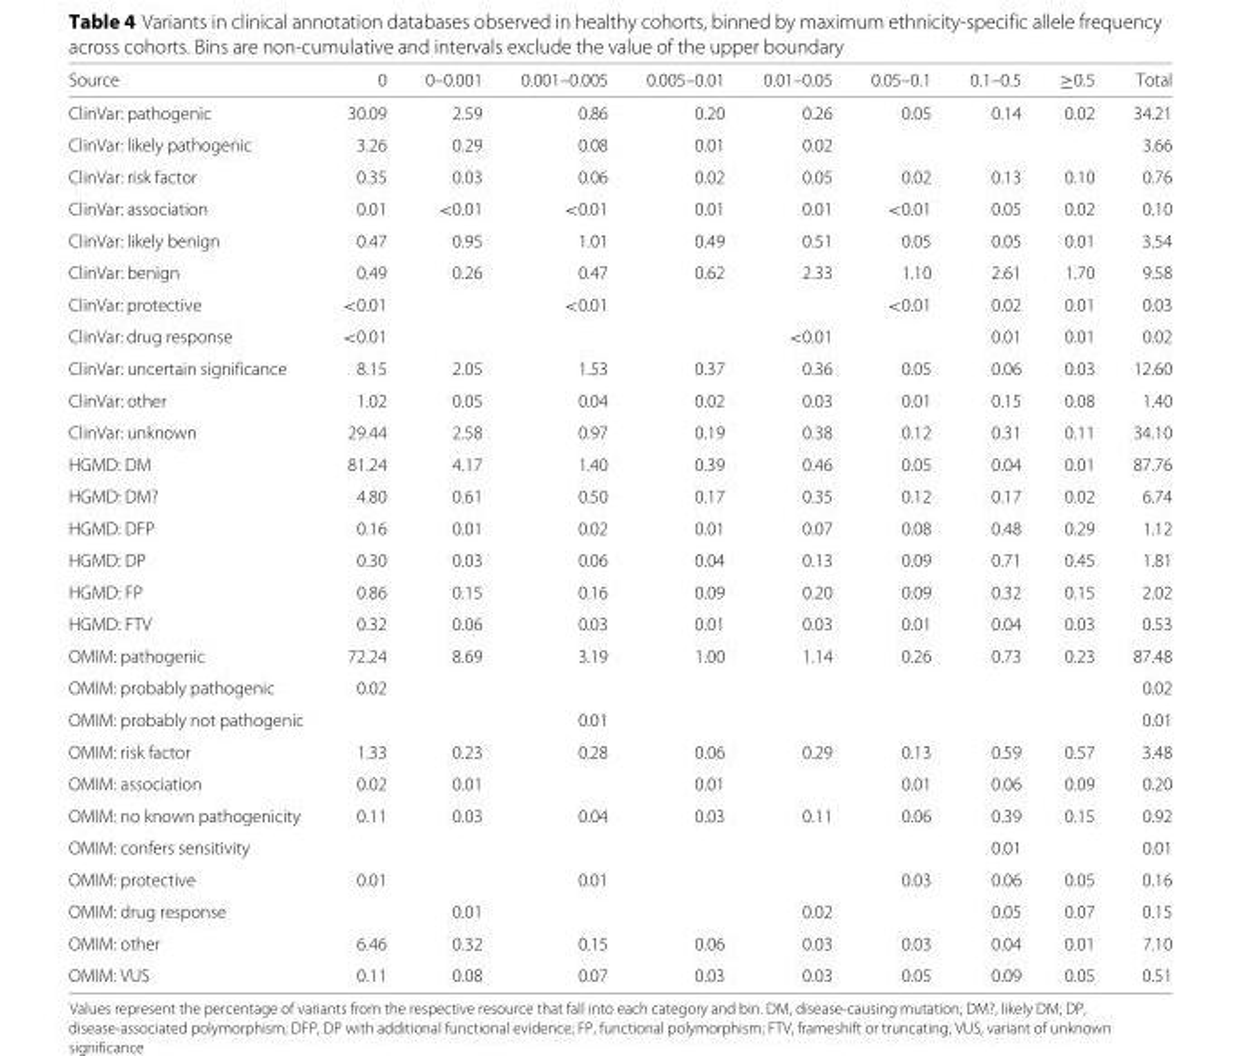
<table><thead><tr><td>Source</td><td>0</td><td>0–0.001</td><td>0.001–0.005</td><td>0.005–0.01</td><td>0.01–0.05</td><td>0.05–0.1</td><td>0.1–0.5</td><td>≥0.5</td><td>Total</td></tr></thead><tbody><tr><td>ClinVar: pathogenic</td><td>30.09</td><td>2.59</td><td>0.86</td><td>0.20</td><td>0.26</td><td>0.05</td><td>0.14</td><td>0.02</td><td>34.21</td></tr><tr><td>ClinVar: likely pathogenic</td><td>3.26</td><td>0.29</td><td>0.08</td><td>0.01</td><td>0.02</td><td></td><td></td><td></td><td>3.66</td></tr><tr><td>ClinVar: risk factor</td><td>0.35</td><td>0.03</td><td>0.06</td><td>0.02</td><td>0.05</td><td>0.02</td><td>0.13</td><td>0.10</td><td>0.76</td></tr><tr><td>ClinVar: association</td><td>0.01</td><td>&lt;0.01</td><td>&lt;0.01</td><td>0.01</td><td>0.01</td><td>&lt;0.01</td><td>0.05</td><td>0.02</td><td>0.10</td></tr><tr><td>ClinVar: likely benign</td><td>0.47</td><td>0.95</td><td>1.01</td><td>0.49</td><td>0.51</td><td>0.05</td><td>0.05</td><td>0.01</td><td>3.54</td></tr><tr><td>ClinVar: benign</td><td>0.49</td><td>0.26</td><td>0.47</td><td>0.62</td><td>2.33</td><td>1.10</td><td>2.61</td><td>1.70</td><td>9.58</td></tr><tr><td>ClinVar: protective</td><td>&lt;0.01</td><td></td><td>&lt;0.01</td><td></td><td></td><td>&lt;0.01</td><td>0.02</td><td>0.01</td><td>0.03</td></tr><tr><td>ClinVar: drug response</td><td>&lt;0.01</td><td></td><td></td><td></td><td>&lt;0.01</td><td></td><td>0.01</td><td>0.01</td><td>0.02</td></tr><tr><td>ClinVar: uncertain significance</td><td>8.15</td><td>2.05</td><td>1.53</td><td>0.37</td><td>0.36</td><td>0.05</td><td>0.06</td><td>0.03</td><td>12.60</td></tr><tr><td>ClinVar: other</td><td>1.02</td><td>0.05</td><td>0.04</td><td>0.02</td><td>0.03</td><td>0.01</td><td>0.15</td><td>0.08</td><td>1.40</td></tr><tr><td>ClinVar: unknown</td><td>29.44</td><td>2.58</td><td>0.97</td><td>0.19</td><td>0.38</td><td>0.12</td><td>0.31</td><td>0.11</td><td>34.10</td></tr><tr><td>HGMD: DM</td><td>81.24</td><td>4.17</td><td>1.40</td><td>0.39</td><td>0.46</td><td>0.05</td><td>0.04</td><td>0.01</td><td>87.76</td></tr><tr><td>HGMD: DM?</td><td>4.80</td><td>0.61</td><td>0.50</td><td>0.17</td><td>0.35</td><td>0.12</td><td>0.17</td><td>0.02</td><td>6.74</td></tr><tr><td>HGMD: DFP</td><td>0.16</td><td>0.01</td><td>0.02</td><td>0.01</td><td>0.07</td><td>0.08</td><td>0.48</td><td>0.29</td><td>1.12</td></tr><tr><td>HGMD: DP</td><td>0.30</td><td>0.03</td><td>0.06</td><td>0.04</td><td>0.13</td><td>0.09</td><td>0.71</td><td>0.45</td><td>1.81</td></tr><tr><td>HGMD: FP</td><td>0.86</td><td>0.15</td><td>0.16</td><td>0.09</td><td>0.20</td><td>0.09</td><td>0.32</td><td>0.15</td><td>2.02</td></tr><tr><td>HGMD: FTV</td><td>0.32</td><td>0.06</td><td>0.03</td><td>0.01</td><td>0.03</td><td>0.01</td><td>0.04</td><td>0.03</td><td>0.53</td></tr><tr><td>OMIM: pathogenic</td><td>72.24</td><td>8.69</td><td>3.19</td><td>1.00</td><td>1.14</td><td>0.26</td><td>0.73</td><td>0.23</td><td>87.48</td></tr><tr><td>OMIM: probably pathogenic</td><td>0.02</td><td></td><td></td><td></td><td></td><td></td><td></td><td></td><td>0.02</td></tr><tr><td>OMIM: probably not pathogenic</td><td></td><td></td><td>0.01</td><td></td><td></td><td></td><td></td><td></td><td>0.01</td></tr><tr><td>OMIM: risk factor</td><td>1.33</td><td>0.23</td><td>0.28</td><td>0.06</td><td>0.29</td><td>0.13</td><td>0.59</td><td>0.57</td><td>3.48</td></tr><tr><td>OMIM: association</td><td>0.02</td><td>0.01</td><td></td><td>0.01</td><td></td><td>0.01</td><td>0.06</td><td>0.09</td><td>0.20</td></tr><tr><td>OMIM: no known pathogenicity</td><td>0.11</td><td>0.03</td><td>0.04</td><td>0.03</td><td>0.11</td><td>0.06</td><td>0.39</td><td>0.15</td><td>0.92</td></tr><tr><td>OMIM: confers sensitivity</td><td></td><td></td><td></td><td></td><td></td><td></td><td>0.01</td><td></td><td>0.01</td></tr><tr><td>OMIM: protective</td><td>0.01</td><td></td><td>0.01</td><td></td><td></td><td>0.03</td><td>0.06</td><td>0.05</td><td>0.16</td></tr><tr><td>OMIM: drug response</td><td></td><td>0.01</td><td></td><td></td><td>0.02</td><td></td><td>0.05</td><td>0.07</td><td>0.15</td></tr><tr><td>OMIM: other</td><td>6.46</td><td>0.32</td><td>0.15</td><td>0.06</td><td>0.03</td><td>0.03</td><td>0.04</td><td>0.01</td><td>7.10</td></tr><tr><td>OMIM: VUS</td><td>0.11</td><td>0.08</td><td>0.07</td><td>0.03</td><td>0.03</td><td>0.05</td><td>0.09</td><td>0.05</td><td>0.51</td></tr></tbody></table>